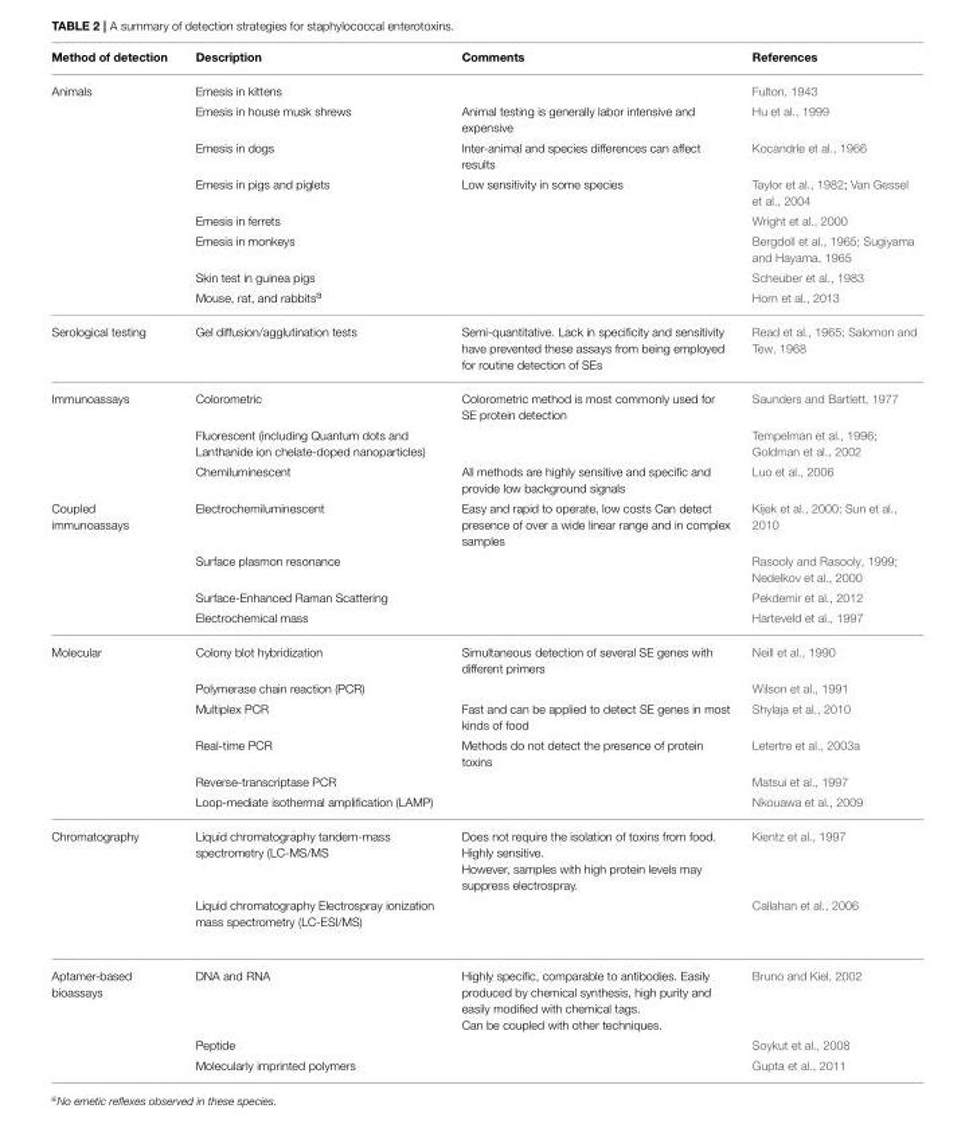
<table><thead><tr><td>Method of detection</td><td>Description</td><td>Comments</td><td>References</td></tr></thead><tbody><tr><td rowspan="8">Animals</td><td>Emesis in kittens</td><td></td><td>Fulton, 1943</td></tr><tr><td>Emesis in house musk shrews</td><td>Animal testing is generally labor intensive and expensive</td><td>Hu et al., 1999</td></tr><tr><td>Emesis in dogs</td><td>Inter-animal and species differences can affect results</td><td>Kocandrle et al., 1966</td></tr><tr><td>Emesis in pigs and piglets</td><td>Low sensitivity in some species</td><td>Taylor et al., 1982; Van Gessel et al., 2004</td></tr><tr><td>Emesis in ferrets</td><td></td><td>Wright et al., 2000</td></tr><tr><td>Emesis in monkeys</td><td></td><td>Bergdoll et al., 1965; Sugiyama and Hayama, 1965</td></tr><tr><td>Skin test in guinea pigs</td><td></td><td>Scheuber et al., 1983</td></tr><tr><td>Mouse, rat, and rabbits<sup>a</sup></td><td></td><td>Horn et al., 2013</td></tr><tr><td>Serological testing</td><td>Gel diffusion/agglutination tests</td><td>Semi-quantitative. Lack in specificity and sensitivity have prevented these assays from being employed for routine detection of SEs</td><td>Read et al., 1965; Salomon and Tew, 1968</td></tr><tr><td rowspan="3">Immunoassays</td><td>Colorometric</td><td>Colorometric method is most commonly used for SE protein detection</td><td>Saunders and Bartlett, 1977</td></tr><tr><td>Fluorescent (including Quantum dots and Lanthanide ion chelate-doped nanoparticles)</td><td></td><td>Tempelman et al., 1996; Goldman et al., 2002</td></tr><tr><td>Chemiluminescent</td><td>All methods are highly sensitive and specific and provide low background signals</td><td>Luo et al., 2006</td></tr><tr><td rowspan="4">Coupled immunoassays</td><td>Electrochemiluminescent</td><td>Easy and rapid to operate, low costs Can detect presence of over a wide linear range and in complex samples</td><td>Kijek et al., 2000; Sun et al., 2010</td></tr><tr><td>Surface plasmon resonance</td><td></td><td>Rasooly and Rasooly, 1999; Nedelkov et al., 2000</td></tr><tr><td>Surface-Enhanced Raman Scattering</td><td></td><td>Pekdemir et al., 2012</td></tr><tr><td>Electrochemical mass</td><td></td><td>Harteveld et al., 1997</td></tr><tr><td rowspan="6">Molecular</td><td>Colony blot hybridization</td><td>Simultaneous detection of several SE genes with different primers</td><td>Neill et al., 1990</td></tr><tr><td>Polymerase chain reaction (PCR)</td><td></td><td>Wilson et al., 1991</td></tr><tr><td>Multiplex PCR</td><td>Fast and can be applied to detect SE genes in most kinds of food</td><td>Shylaja et al., 2010</td></tr><tr><td>Real-time PCR</td><td>Methods do not detect the presence of protein toxins</td><td>Letertre et al., 2003a</td></tr><tr><td>Reverse-transcriptase PCR</td><td></td><td>Matsui et al., 1997</td></tr><tr><td>Loop-mediate isothermal amplification (LAMP)</td><td></td><td>Nkouawa et al., 2009</td></tr><tr><td rowspan="2">Chromatography</td><td>Liquid chromatography tandem-mass spectrometry (LC-MS/MS</td><td>Does not require the isolation of toxins from food. Highly sensitive. However, samples with high protein levels may suppress electrospray.</td><td>Kientz et al., 1997</td></tr><tr><td>Liquid chromatography Electrospray ionization mass spectrometry (LC-ESI/MS)</td><td></td><td>Callahan et al., 2006</td></tr><tr><td rowspan="3">Aptamer-based bioassays</td><td>DNA and RNA</td><td>Highly specific, comparable to antibodies. Easily produced by chemical synthesis, high purity and easily modified with chemical tags. Can be coupled with other techniques.</td><td>Bruno and Kiel, 2002</td></tr><tr><td>Peptide</td><td></td><td>Soykut et al., 2008</td></tr><tr><td>Molecularly imprinted polymers</td><td></td><td>Gupta et al., 2011</td></tr></tbody></table>